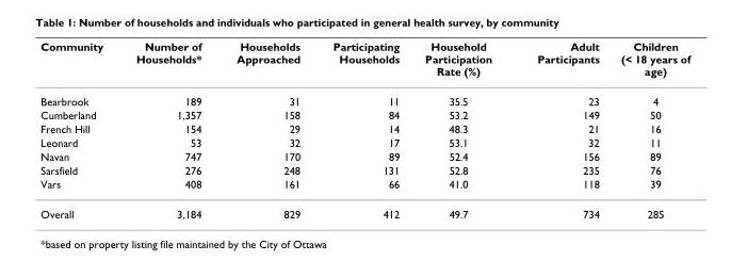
<table><thead><tr><td>Community</td><td>Number of Households*</td><td>Households Approached</td><td>Participating Households</td><td>Household Participation Rate (%)</td><td>Adult Participants</td><td>Children (&lt; 18 years of age)</td></tr></thead><tbody><tr><td>Bearbrook</td><td>189</td><td>31</td><td>11</td><td>35.5</td><td>23</td><td>4</td></tr><tr><td>Cumberland</td><td>1,357</td><td>158</td><td>84</td><td>53.2</td><td>149</td><td>50</td></tr><tr><td>French Hill</td><td>154</td><td>29</td><td>14</td><td>48.3</td><td>21</td><td>16</td></tr><tr><td>Leonard</td><td>53</td><td>32</td><td>17</td><td>53.1</td><td>32</td><td>11</td></tr><tr><td>Navan</td><td>747</td><td>170</td><td>89</td><td>52.4</td><td>156</td><td>89</td></tr><tr><td>Sarsfield</td><td>276</td><td>248</td><td>131</td><td>52.8</td><td>235</td><td>76</td></tr><tr><td>Vars</td><td>408</td><td>161</td><td>66</td><td>41.0</td><td>118</td><td>39</td></tr><tr><td>Overall</td><td>3,184</td><td>829</td><td>412</td><td>49.7</td><td>734</td><td>285</td></tr></tbody></table>